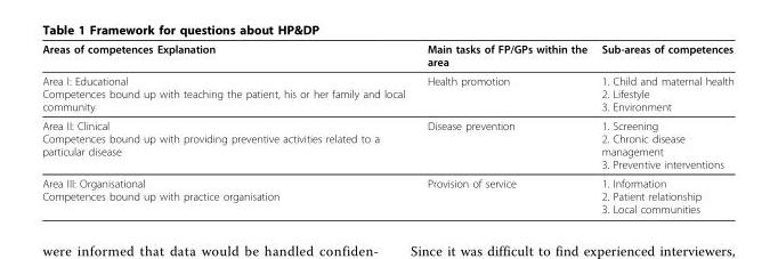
<table><thead><tr><td>Areas of competences Explanation</td><td>Main tasks of FP/GPs within the area</td><td>Sub-areas of competences</td></tr></thead><tbody><tr><td>Area I: Educational Competences bound up with teaching the patient, his or her family and local community</td><td>Health promotion</td><td>1. Child and maternal health 2. Lifestyle 3. Environment</td></tr><tr><td>Area II: Clinical Competences bound up with providing preventive activities related to a particular disease</td><td>Disease prevention</td><td>1. Screening 2. Chronic disease management 3. Preventive interventions</td></tr><tr><td>Area III: Organisational Competences bound up with practice organisation</td><td>Provision of service</td><td>1. Information 2. Patient relationship 3. Local communities</td></tr></tbody></table>